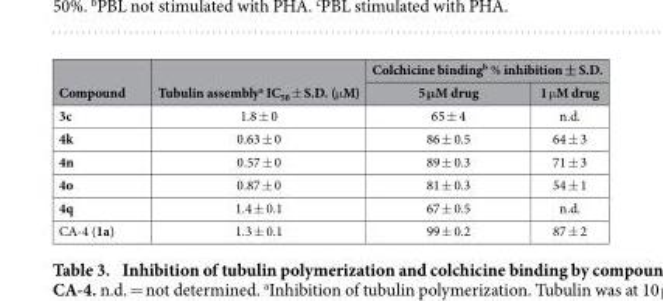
<table><thead><tr><td rowspan="2">Compound</td><td rowspan="2">Tubulin assembly<sup>a</sup> IC<sub>50</sub> ± S.D. (μ M)</td><td colspan="2">Colchicine binding<sup>b</sup> % inhibition ± S.D.</td></tr><tr><td>5 μM drug</td><td>1 μ M drug</td></tr></thead><tbody><tr><td>3c</td><td>1.8 ± 0</td><td>65 ± 4</td><td>n.d.</td></tr><tr><td>4k</td><td>0.63 ± 0</td><td>86 ± 0.5</td><td>64 ± 3</td></tr><tr><td>4n</td><td>0.57 ± 0</td><td>89 ± 0.3</td><td>71 ± 3</td></tr><tr><td>4o</td><td>0.87 ± 0</td><td>81 ± 0.3</td><td>54 ± 1</td></tr><tr><td>4q</td><td>1.4 ± 0.1</td><td>67 ± 0.5</td><td>n.d.</td></tr><tr><td>CA-4 (1a)</td><td>1.3 ± 0.1</td><td>99 ± 0.2</td><td>87 ± 2</td></tr></tbody></table>